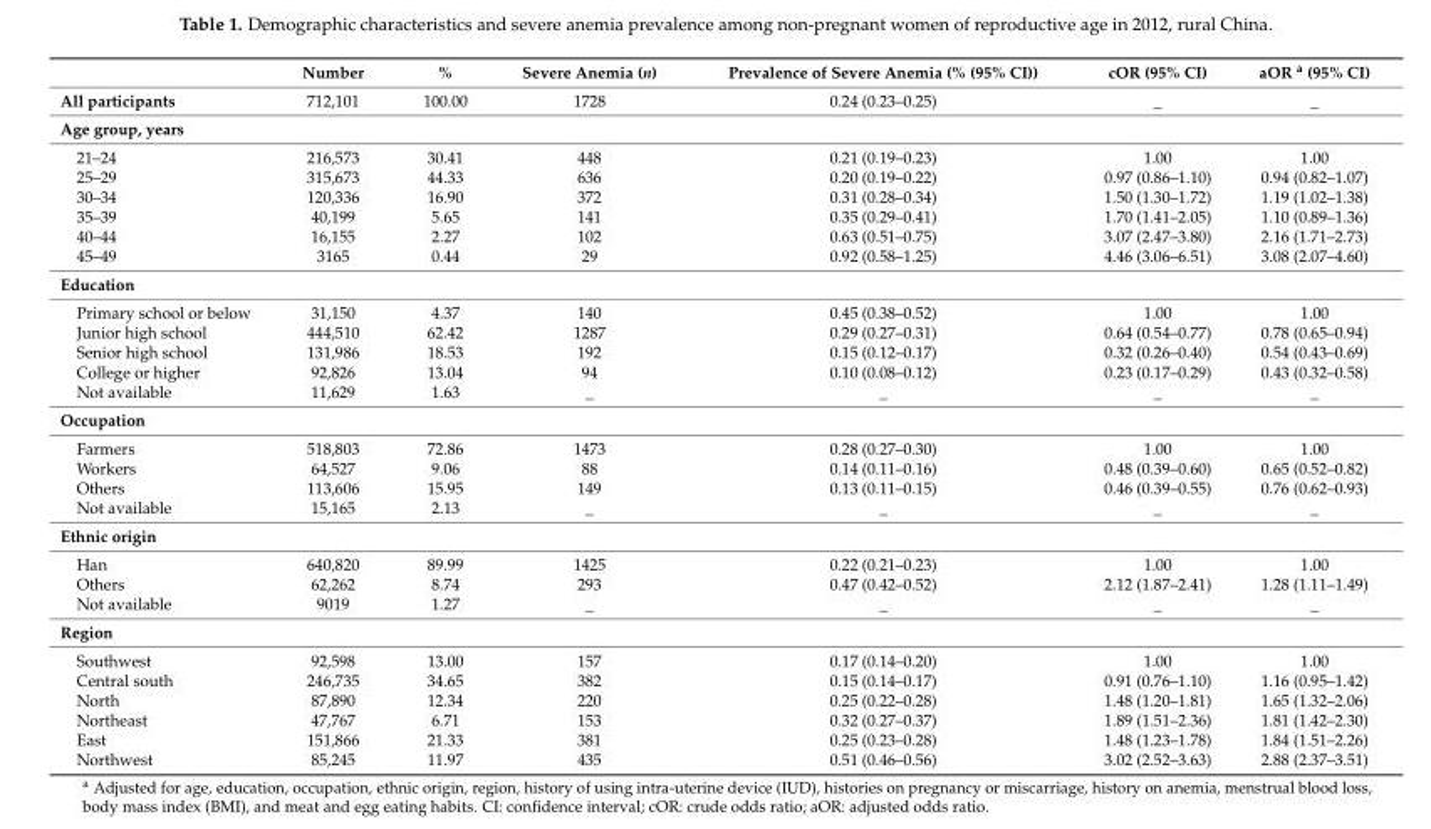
<table><thead><tr><td></td><td>Number</td><td>%</td><td>Severe Anemia (n)</td><td>Prevalence of Severe Anemia (% (95% CI))</td><td>cOR (95% CI)</td><td>aOR <sup>a</sup> (95% CI)</td></tr></thead><tbody><tr><td>All participants</td><td>712,101</td><td>100.00</td><td>1728</td><td>0.24 (0.23–0.25)</td><td>_</td><td>_</td></tr><tr><td colspan="7">Age group, years</td></tr><tr><td>21–24</td><td>216,573</td><td>30.41</td><td>448</td><td>0.21 (0.19–0.23)</td><td>1.00</td><td>1.00</td></tr><tr><td>25–29</td><td>315,673</td><td>44.33</td><td>636</td><td>0.20 (0.19–0.22)</td><td>0.97 (0.86–1.10)</td><td>0.94 (0.82–1.07)</td></tr><tr><td>30–34</td><td>120,336</td><td>16.90</td><td>372</td><td>0.31 (0.28–0.34)</td><td>1.50 (1.30–1.72)</td><td>1.19 (1.02–1.38)</td></tr><tr><td>35–39</td><td>40,199</td><td>5.65</td><td>141</td><td>0.35 (0.29–0.41)</td><td>1.70 (1.41–2.05)</td><td>1.10 (0.89–1.36)</td></tr><tr><td>40–44</td><td>16,155</td><td>2.27</td><td>102</td><td>0.63 (0.51–0.75)</td><td>3.07 (2.47–3.80)</td><td>2.16 (1.71–2.73)</td></tr><tr><td>45–49</td><td>3165</td><td>0.44</td><td>29</td><td>0.92 (0.58–1.25)</td><td>4.46 (3.06–6.51)</td><td>3.08 (2.07–4.60)</td></tr><tr><td colspan="7">Education</td></tr><tr><td>Primary school or below</td><td>31,150</td><td>4.37</td><td>140</td><td>0.45 (0.38–0.52)</td><td>1.00</td><td>1.00</td></tr><tr><td>Junior high school</td><td>444,510</td><td>62.42</td><td>1287</td><td>0.29 (0.27–0.31)</td><td>0.64 (0.54–0.77)</td><td>0.78 (0.65–0.94)</td></tr><tr><td>Senior high school</td><td>131,986</td><td>18.53</td><td>192</td><td>0.15 (0.12–0.17)</td><td>0.32 (0.26–0.40)</td><td>0.54 (0.43–0.69)</td></tr><tr><td>College or higher</td><td>92,826</td><td>13.04</td><td>94</td><td>0.10 (0.08–0.12)</td><td>0.23 (0.17–0.29)</td><td>0.43 (0.32–0.58)</td></tr><tr><td>Not available</td><td>11,629</td><td>1.63</td><td>_</td><td>_</td><td>_</td><td>_</td></tr><tr><td colspan="7">Occupation</td></tr><tr><td>Farmers</td><td>518,803</td><td>72.86</td><td>1473</td><td>0.28 (0.27–0.30)</td><td>1.00</td><td>1.00</td></tr><tr><td>Workers</td><td>64,527</td><td>9.06</td><td>88</td><td>0.14 (0.11–0.16)</td><td>0.48 (0.39–0.60)</td><td>0.65 (0.52–0.82)</td></tr><tr><td>Others</td><td>113,606</td><td>15.95</td><td>149</td><td>0.13 (0.11–0.15)</td><td>0.46 (0.39–0.55)</td><td>0.76 (0.62–0.93)</td></tr><tr><td>Not available</td><td>15,165</td><td>2.13</td><td>_</td><td>_</td><td>_</td><td>_</td></tr><tr><td colspan="7">Ethnic origin</td></tr><tr><td>Han</td><td>640,820</td><td>89.99</td><td>1425</td><td>0.22 (0.21–0.23)</td><td>1.00</td><td>1.00</td></tr><tr><td>Others</td><td>62,262</td><td>8.74</td><td>293</td><td>0.47 (0.42–0.52)</td><td>2.12 (1.87–2.41)</td><td>1.28 (1.11–1.49)</td></tr><tr><td>Not available</td><td>9019</td><td>1.27</td><td>_</td><td>_</td><td>_</td><td>_</td></tr><tr><td colspan="7">Region</td></tr><tr><td>Southwest</td><td>92,598</td><td>13.00</td><td>157</td><td>0.17 (0.14–0.20)</td><td>1.00</td><td>1.00</td></tr><tr><td>Central south</td><td>246,735</td><td>34.65</td><td>382</td><td>0.15 (0.14–0.17)</td><td>0.91 (0.76–1.10)</td><td>1.16 (0.95–1.42)</td></tr><tr><td>North</td><td>87,890</td><td>12.34</td><td>220</td><td>0.25 (0.22–0.28)</td><td>1.48 (1.20–1.81)</td><td>1.65 (1.32–2.06)</td></tr><tr><td>Northeast</td><td>47,767</td><td>6.71</td><td>153</td><td>0.32 (0.27–0.37)</td><td>1.89 (1.51–2.36)</td><td>1.81 (1.42–2.30)</td></tr><tr><td>East</td><td>151,866</td><td>21.33</td><td>381</td><td>0.25 (0.23–0.28)</td><td>1.48 (1.23–1.78)</td><td>1.84 (1.51–2.26)</td></tr><tr><td>Northwest</td><td>85,245</td><td>11.97</td><td>435</td><td>0.51 (0.46–0.56)</td><td>3.02 (2.52–3.63)</td><td>2.88 (2.37–3.51)</td></tr></tbody></table>